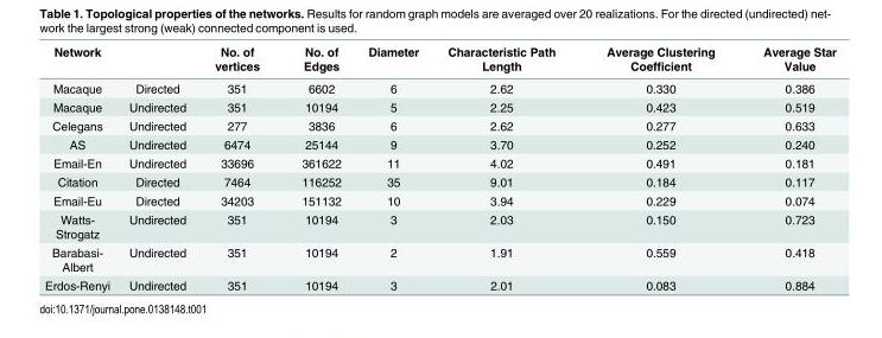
<table><thead><tr><td>Network</td><td></td><td>No. of vertices</td><td>No. of Edges</td><td>Diameter</td><td>Characteristic Path Length</td><td>Average Clustering Coefficient</td><td>Average Star Value</td></tr></thead><tbody><tr><td>Macaque</td><td>Directed</td><td>351</td><td>6602</td><td>6</td><td>2.62</td><td>0.330</td><td>0.386</td></tr><tr><td>Macaque</td><td>Undirected</td><td>351</td><td>10194</td><td>5</td><td>2.25</td><td>0.423</td><td>0.519</td></tr><tr><td>Celegans</td><td>Undirected</td><td>277</td><td>3836</td><td>6</td><td>2.62</td><td>0.277</td><td>0.633</td></tr><tr><td>AS</td><td>Undirected</td><td>6474</td><td>25144</td><td>9</td><td>3.70</td><td>0.252</td><td>0.240</td></tr><tr><td>Email-En</td><td>Undirected</td><td>33696</td><td>361622</td><td>11</td><td>4.02</td><td>0.491</td><td>0.181</td></tr><tr><td>Citation</td><td>Directed</td><td>7464</td><td>116252</td><td>35</td><td>9.01</td><td>0.184</td><td>0.117</td></tr><tr><td>Email-Eu</td><td>Directed</td><td>34203</td><td>151132</td><td>10</td><td>3.94</td><td>0.229</td><td>0.074</td></tr><tr><td>Watts- Strogatz</td><td>Undirected</td><td>351</td><td>10194</td><td>3</td><td>2.03</td><td>0.150</td><td>0.723</td></tr><tr><td>Barabasi- Albert</td><td>Undirected</td><td>351</td><td>10194</td><td>2</td><td>1.91</td><td>0.559</td><td>0.418</td></tr><tr><td>Erdos-Renyi</td><td>Undirected</td><td>351</td><td>10194</td><td>3</td><td>2.01</td><td>0.083</td><td>0.884</td></tr></tbody></table>